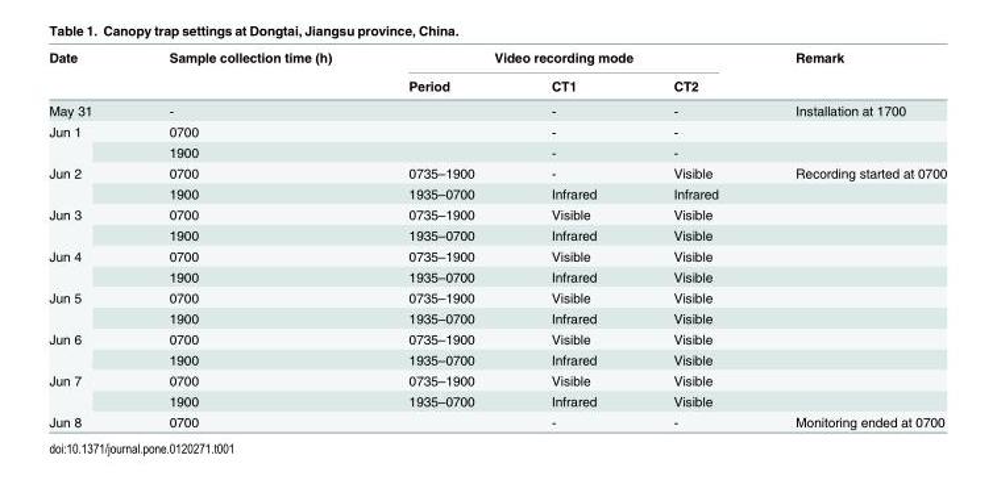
<table><thead><tr><td rowspan="2">Date</td><td rowspan="2">Sample collection time (h)</td><td colspan="3">Video recording mode</td><td rowspan="2">Remark</td></tr><tr><td>Period</td><td>CT1</td><td>CT2</td></tr></thead><tbody><tr><td>May 31</td><td>-</td><td></td><td>-</td><td>-</td><td>Installation at 1700</td></tr><tr><td rowspan="2">Jun 1</td><td>0700</td><td></td><td>-</td><td>-</td><td></td></tr><tr><td>1900</td><td></td><td>-</td><td>-</td><td></td></tr><tr><td rowspan="2">Jun 2</td><td>0700</td><td>0735–1900</td><td>-</td><td>Visible</td><td>Recording started at 0700</td></tr><tr><td>1900</td><td>1935–0700</td><td>Infrared</td><td>Infrared</td><td></td></tr><tr><td rowspan="2">Jun 3</td><td>0700</td><td>0735–1900</td><td>Visible</td><td>Visible</td><td></td></tr><tr><td>1900</td><td>1935–0700</td><td>Infrared</td><td>Visible</td><td></td></tr><tr><td rowspan="2">Jun 4</td><td>0700</td><td>0735–1900</td><td>Visible</td><td>Visible</td><td></td></tr><tr><td>1900</td><td>1935–0700</td><td>Infrared</td><td>Visible</td><td></td></tr><tr><td rowspan="2">Jun 5</td><td>0700</td><td>0735–1900</td><td>Visible</td><td>Visible</td><td></td></tr><tr><td>1900</td><td>1935–0700</td><td>Infrared</td><td>Visible</td><td></td></tr><tr><td rowspan="2">Jun 6</td><td>0700</td><td>0735–1900</td><td>Visible</td><td>Visible</td><td></td></tr><tr><td>1900</td><td>1935–0700</td><td>Infrared</td><td>Visible</td><td></td></tr><tr><td rowspan="2">Jun 7</td><td>0700</td><td>0735–1900</td><td>Visible</td><td>Visible</td><td></td></tr><tr><td>1900</td><td>1935–0700</td><td>Infrared</td><td>Visible</td><td></td></tr><tr><td>Jun 8</td><td>0700</td><td></td><td>-</td><td>-</td><td>Monitoring ended at 0700</td></tr></tbody></table>